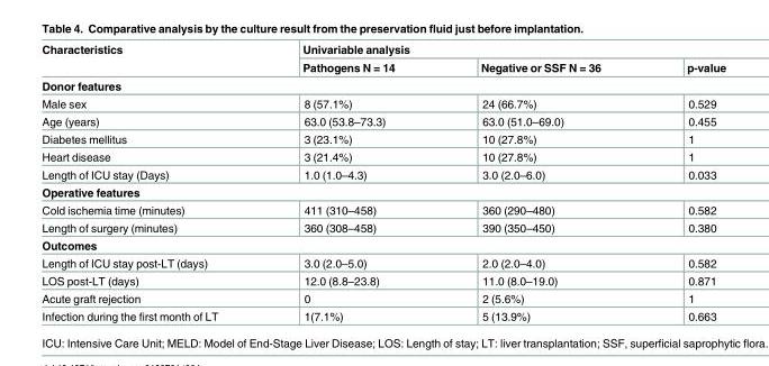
<table><thead><tr><td rowspan="2">Characteristics</td><td colspan="3">Univariable analysis</td></tr><tr><td>Pathogens N = 14</td><td>Negative or SSF N = 36</td><td>p-value</td></tr></thead><tbody><tr><td colspan="4">Donor features</td></tr><tr><td>Male sex</td><td>8 (57.1%)</td><td>24 (66.7%)</td><td>0.529</td></tr><tr><td>Age (years)</td><td>63.0 (53.8–73.3)</td><td>63.0 (51.0–69.0)</td><td>0.455</td></tr><tr><td>Diabetes mellitus</td><td>3 (23.1%)</td><td>10 (27.8%)</td><td>1</td></tr><tr><td>Heart disease</td><td>3 (21.4%)</td><td>10 (27.8%)</td><td>1</td></tr><tr><td>Length of ICU stay (Days)</td><td>1.0 (1.0–4.3)</td><td>3.0 (2.0–6.0)</td><td>0.033</td></tr><tr><td colspan="4">Operative features</td></tr><tr><td>Cold ischemia time (minutes)</td><td>411 (310–458)</td><td>360 (290–480)</td><td>0.582</td></tr><tr><td>Length of surgery (minutes)</td><td>360 (308–458)</td><td>390 (350–450)</td><td>0.380</td></tr><tr><td colspan="4">Outcomes</td></tr><tr><td>Length of ICU stay post-LT (days)</td><td>3.0 (2.0–5.0)</td><td>2.0 (2.0–4.0)</td><td>0.582</td></tr><tr><td>LOS post-LT (days)</td><td>12.0 (8.8–23.8)</td><td>11.0 (8.0–19.0)</td><td>0.871</td></tr><tr><td>Acute graft rejection</td><td>0</td><td>2 (5.6%)</td><td>1</td></tr><tr><td>Infection during the first month of LT</td><td>1(7.1%)</td><td>5 (13.9%)</td><td>0.663</td></tr></tbody></table>